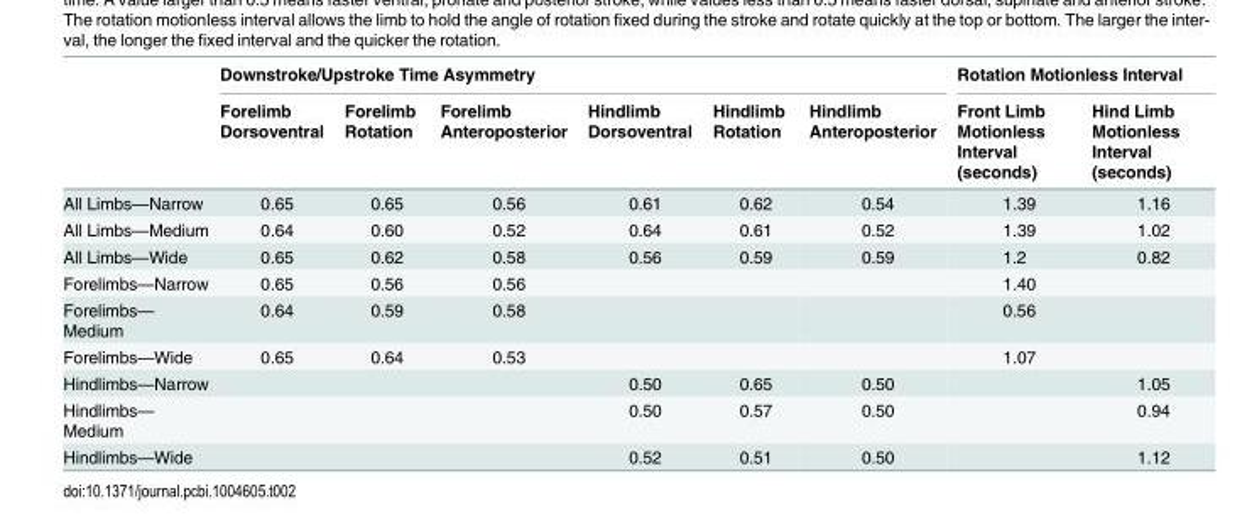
<table><thead><tr><td rowspan="2"></td><td colspan="6">Downstroke/Upstroke Time Asymmetry</td><td colspan="2">Rotation Motionless Interval</td></tr><tr><td>Forelimb Dorsoventral</td><td>Forelimb Rotation</td><td>Forelimb Anteroposterior</td><td>Hindlimb Dorsoventral</td><td>Hindlimb Rotation</td><td>Hindlimb Anteroposterior</td><td>Front Limb Motionless Interval (seconds)</td><td>Hind Limb Motionless Interval (seconds)</td></tr></thead><tbody><tr><td>All Limbs—Narrow</td><td>0.65</td><td>0.65</td><td>0.56</td><td>0.61</td><td>0.62</td><td>0.54</td><td>1.39</td><td>1.16</td></tr><tr><td>All Limbs—Medium</td><td>0.64</td><td>0.60</td><td>0.52</td><td>0.64</td><td>0.61</td><td>0.52</td><td>1.39</td><td>1.02</td></tr><tr><td>All Limbs—Wide</td><td>0.65</td><td>0.62</td><td>0.58</td><td>0.56</td><td>0.59</td><td>0.59</td><td>1.2</td><td>0.82</td></tr><tr><td>Forelimbs—Narrow</td><td>0.65</td><td>0.56</td><td>0.56</td><td></td><td></td><td></td><td>1.40</td><td></td></tr><tr><td>Forelimbs— Medium</td><td>0.64</td><td>0.59</td><td>0.58</td><td></td><td></td><td></td><td>0.56</td><td></td></tr><tr><td>Forelimbs—Wide</td><td>0.65</td><td>0.64</td><td>0.53</td><td></td><td></td><td></td><td>1.07</td><td></td></tr><tr><td>Hindlimbs—Narrow</td><td></td><td></td><td></td><td>0.50</td><td>0.65</td><td>0.50</td><td></td><td>1.05</td></tr><tr><td>Hindlimbs— Medium</td><td></td><td></td><td></td><td>0.50</td><td>0.57</td><td>0.50</td><td></td><td>0.94</td></tr><tr><td>Hindlimbs—Wide</td><td></td><td></td><td></td><td>0.52</td><td>0.51</td><td>0.50</td><td></td><td>1.12</td></tr></tbody></table>